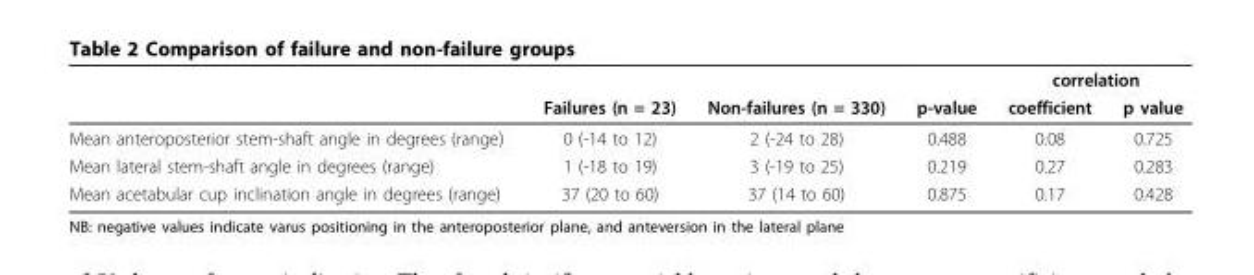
<table><thead><tr><td rowspan="2"></td><td rowspan="2">Failures (n = 23)</td><td rowspan="2">Non-failures (n = 330)</td><td rowspan="2">p-value</td><td colspan="2">correlation</td></tr><tr><td>coefficient</td><td>p value</td></tr></thead><tbody><tr><td>Mean anteroposterior stem-shaft angle in degrees (range)</td><td>0 (-14 to 12)</td><td>2 (-24 to 28)</td><td>0.488</td><td>0.08</td><td>0.725</td></tr><tr><td>Mean lateral stem-shaft angle in degrees (range)</td><td>1 (-18 to 19)</td><td>3 (-19 to 25)</td><td>0.219</td><td>0.27</td><td>0.283</td></tr><tr><td>Mean acetabular cup inclination angle in degrees (range)</td><td>37 (20 to 60)</td><td>37 (14 to 60)</td><td>0.875</td><td>0.17</td><td>0.428</td></tr></tbody></table>